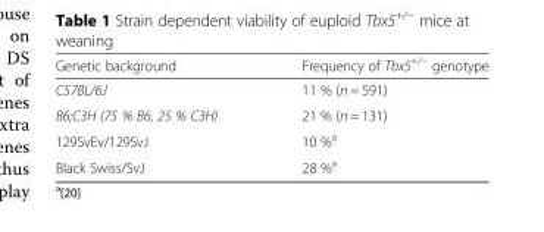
<table><thead><tr><td>Genetic background</td><td>Frequency of Tbx5<sup>+/−</sup> genotype</td></tr></thead><tbody><tr><td>C57BL/6J</td><td>11 % (n = 591)</td></tr><tr><td>B6;C3H (75 % B6, 25 % C3H)</td><td>21 % (n = 131)</td></tr><tr><td>129SvEv/129SvJ</td><td>10 %<sup>a</sup></td></tr><tr><td>Black Swiss/SvJ</td><td>28 %<sup>a</sup></td></tr></tbody></table>